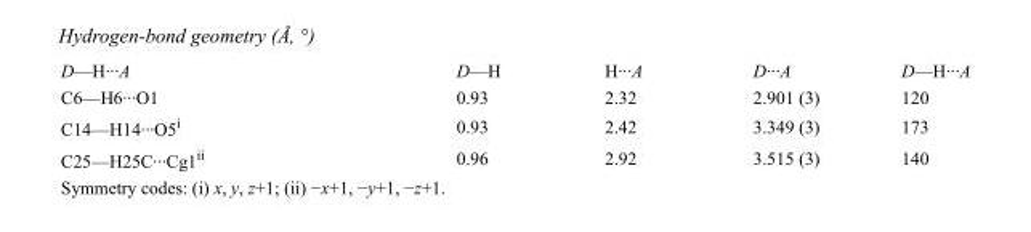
<table><tbody><tr><td>D—H···A</td><td>D—H</td><td>H···A</td><td>D···A</td><td>D—H···A</td></tr><tr><td>C6—H6···O1</td><td>0.93</td><td>2.32</td><td>2.901 (3)</td><td>120</td></tr><tr><td>C14—H14···O5<sup>i</sup></td><td>0.93</td><td>2.42</td><td>3.349 (3)</td><td>173</td></tr><tr><td>C25—H25C···Cg1<sup>ii</sup></td><td>0.96</td><td>2.92</td><td>3.515 (3)</td><td>140</td></tr></tbody></table>